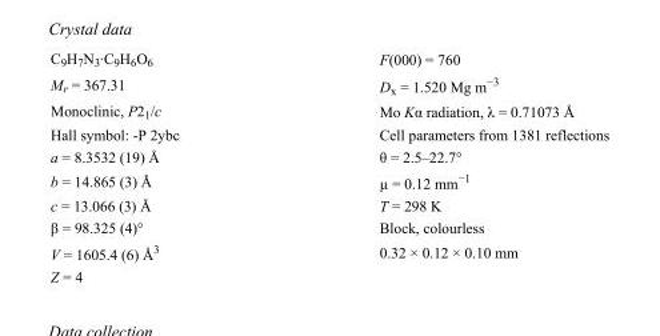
<table><tbody><tr><td>C<sub>9</sub>H<sub>7</sub>N<sub>3</sub>·C<sub>9</sub>H<sub>6</sub>O<sub>6</sub></td><td>F(000) = 760</td></tr><tr><td>M<sub>r</sub> = 367.31</td><td>D<sub>x</sub> = 1.520 Mg m<sup>−3</sup></td></tr><tr><td>Monoclinic, P2<sub>1</sub>/c</td><td>Mo Kα radiation, λ = 0.71073 Å</td></tr><tr><td>Hall symbol: -P 2ybc</td><td>Cell parameters from 1381 reflections</td></tr><tr><td>a = 8.3532 (19) Å</td><td>θ = 2.5–22.7°</td></tr><tr><td>b = 14.865 (3) Å</td><td>µ = 0.12 mm<sup>−1</sup></td></tr><tr><td>c = 13.066 (3) Å</td><td>T = 298 K</td></tr><tr><td>β = 98.325 (4)°</td><td>Block, colourless</td></tr><tr><td>V = 1605.4 (6) Å<sup>3</sup></td><td>0.32 × 0.12 × 0.10 mm</td></tr><tr><td>Z = 4</td><td></td></tr></tbody></table>